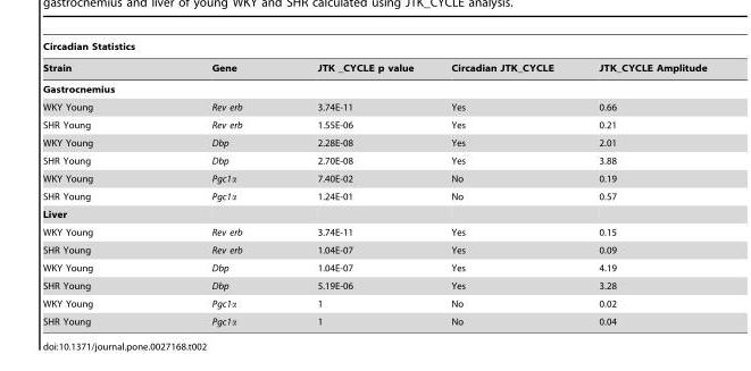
<table><thead><tr><td colspan="5">Circadian Statistics</td></tr><tr><td>Strain</td><td>Gene</td><td>JTK _CYCLE p value</td><td>Circadian JTK_CYCLE</td><td>JTK_CYCLE Amplitude</td></tr></thead><tbody><tr><td colspan="5">Gastrocnemius</td></tr><tr><td>WKY Young</td><td>Rev erb</td><td>3.74E-11</td><td>Yes</td><td>0.66</td></tr><tr><td>SHR Young</td><td>Rev erb</td><td>1.55E-06</td><td>Yes</td><td>0.21</td></tr><tr><td>WKY Young</td><td>Dbp</td><td>2.28E-08</td><td>Yes</td><td>2.01</td></tr><tr><td>SHR Young</td><td>Dbp</td><td>2.70E-08</td><td>Yes</td><td>3.88</td></tr><tr><td>WKY Young</td><td>Pgc1α</td><td>7.40E-02</td><td>No</td><td>0.19</td></tr><tr><td>SHR Young</td><td>Pgc1α</td><td>1.24E-01</td><td>No</td><td>0.57</td></tr><tr><td colspan="5">Liver</td></tr><tr><td>WKY Young</td><td>Rev erb</td><td>3.74E-11</td><td>Yes</td><td>0.15</td></tr><tr><td>SHR Young</td><td>Rev erb</td><td>1.04E-07</td><td>Yes</td><td>0.09</td></tr><tr><td>WKY Young</td><td>Dbp</td><td>1.04E-07</td><td>Yes</td><td>4.19</td></tr><tr><td>SHR Young</td><td>Dbp</td><td>5.19E-06</td><td>Yes</td><td>3.28</td></tr><tr><td>WKY Young</td><td>Pgc1α</td><td>1</td><td>No</td><td>0.02</td></tr><tr><td>SHR Young</td><td>Pgc1α</td><td>1</td><td>No</td><td>0.04</td></tr></tbody></table>